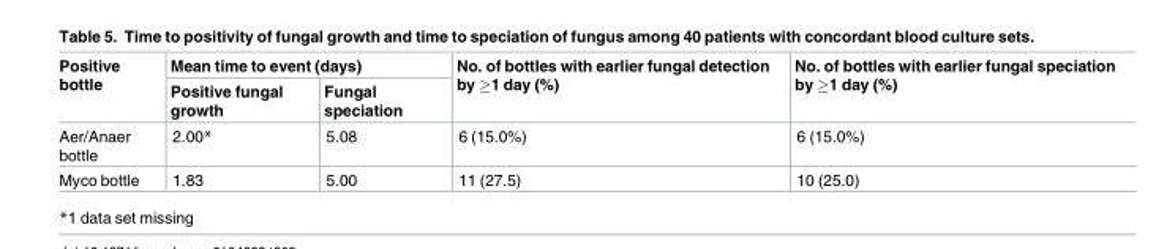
<table><thead><tr><td rowspan="2">Positive bottle</td><td colspan="2">Mean time to event (days)</td><td rowspan="2">No. of bottles with earlier fungal detection by ≥1 day (%)</td><td rowspan="2">No. of bottles with earlier fungal speciation by ≥1 day (%)</td></tr><tr><td>Positive fungal growth</td><td>Fungal speciation</td></tr></thead><tbody><tr><td>Aer/Anaer bottle</td><td>2.00*</td><td>5.08</td><td>6 (15.0%)</td><td>6 (15.0%)</td></tr><tr><td>Myco bottle</td><td>1.83</td><td>5.00</td><td>11 (27.5)</td><td>10 (25.0)</td></tr></tbody></table>